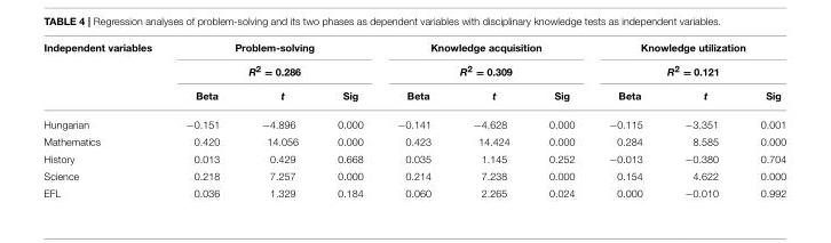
<table><thead><tr><td rowspan="3">Independent variables</td><td rowspan="2" colspan="3">Problem-solving R<sup>2</sup> = 0.286</td><td rowspan="2" colspan="3">Knowledge acquisition R<sup>2</sup> = 0.309</td><td rowspan="2" colspan="3">Knowledge utilization R<sup>2</sup> = 0.121</td></tr><tr></tr><tr><td>Beta</td><td>t</td><td>Sig</td><td>Beta</td><td>t</td><td>Sig</td><td>Beta</td><td>t</td><td>Sig</td></tr></thead><tbody><tr><td>Hungarian</td><td>−0.151</td><td>−4.896</td><td>0.000</td><td>−0.141</td><td>−4.628</td><td>0.000</td><td>−0.115</td><td>−3.351</td><td>0.001</td></tr><tr><td>Mathematics</td><td>0.420</td><td>14.056</td><td>0.000</td><td>0.423</td><td>14.424</td><td>0.000</td><td>0.284</td><td>8.585</td><td>0.000</td></tr><tr><td>History</td><td>0.013</td><td>0.429</td><td>0.668</td><td>0.035</td><td>1.145</td><td>0.252</td><td>−0.013</td><td>−0.380</td><td>0.704</td></tr><tr><td>Science</td><td>0.218</td><td>7.257</td><td>0.000</td><td>0.214</td><td>7.238</td><td>0.000</td><td>0.154</td><td>4.622</td><td>0.000</td></tr><tr><td>EFL</td><td>0.036</td><td>1.329</td><td>0.184</td><td>0.060</td><td>2.265</td><td>0.024</td><td>0.000</td><td>−0.010</td><td>0.992</td></tr></tbody></table>